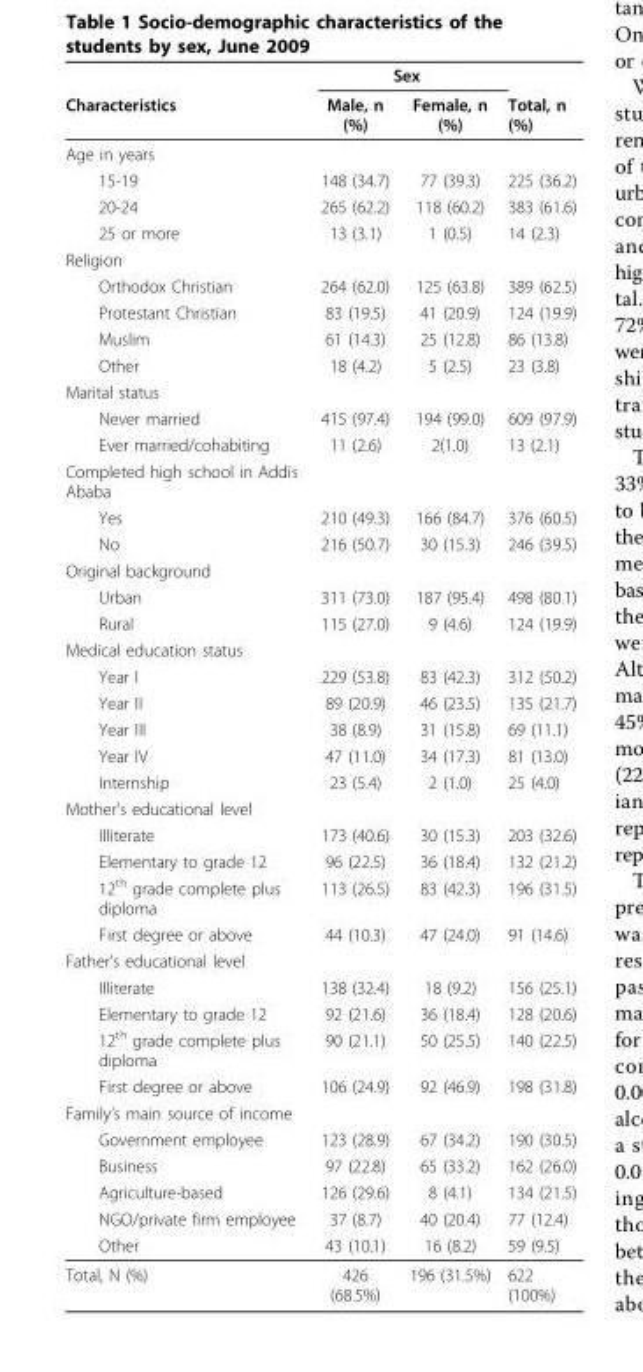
<table><thead><tr><td rowspan="2">Characteristics</td><td colspan="2">Sex</td><td rowspan="2">Total, n (%)</td></tr><tr><td>Male, n (%)</td><td>Female, n (%)</td></tr></thead><tbody><tr><td colspan="4">Age in years</td></tr><tr><td>15-19</td><td>148 (34.7)</td><td>77 (39.3)</td><td>225 (36.2)</td></tr><tr><td>20-24</td><td>265 (62.2)</td><td>118 (60.2)</td><td>383 (61.6)</td></tr><tr><td>25 or more</td><td>13 (3.1)</td><td>1 (0.5)</td><td>14 (2.3)</td></tr><tr><td colspan="4">Religion</td></tr><tr><td>Orthodox Christian</td><td>264 (62.0)</td><td>125 (63.8)</td><td>389 (62.5)</td></tr><tr><td>Protestant Christian</td><td>83 (19.5)</td><td>41 (20.9)</td><td>124 (19.9)</td></tr><tr><td>Muslim</td><td>61 (14.3)</td><td>25 (12.8)</td><td>86 (13.8)</td></tr><tr><td>Other</td><td>18 (4.2)</td><td>5 (2.5)</td><td>23 (3.8)</td></tr><tr><td colspan="4">Marital status</td></tr><tr><td>Never married</td><td>415 (97.4)</td><td>194 (99.0)</td><td>609 (97.9)</td></tr><tr><td>Ever married/cohabiting</td><td>11 (2.6)</td><td>2(1.0)</td><td>13 (2.1)</td></tr><tr><td colspan="4">Completed high school in Addis Ababa</td></tr><tr><td>Yes</td><td>210 (49.3)</td><td>166 (84.7)</td><td>376 (60.5)</td></tr><tr><td>No</td><td>216 (50.7)</td><td>30 (15.3)</td><td>246 (39.5)</td></tr><tr><td colspan="4">Original background</td></tr><tr><td>Urban</td><td>311 (73.0)</td><td>187 (95.4)</td><td>498 (80.1)</td></tr><tr><td>Rural</td><td>115 (27.0)</td><td>9 (4.6)</td><td>124 (19.9)</td></tr><tr><td colspan="4">Medical education status</td></tr><tr><td>Year I</td><td>229 (53.8)</td><td>83 (42.3)</td><td>312 (50.2)</td></tr><tr><td>Year II</td><td>89 (20.9)</td><td>46 (23.5)</td><td>135 (21.7)</td></tr><tr><td>Year III</td><td>38 (8.9)</td><td>31 (15.8)</td><td>69 (11.1)</td></tr><tr><td>Year IV</td><td>47 (11.0)</td><td>34 (17.3)</td><td>81 (13.0)</td></tr><tr><td>Internship</td><td>23 (5.4)</td><td>2 (1.0)</td><td>25 (4.0)</td></tr><tr><td colspan="4">Mother’s educational level</td></tr><tr><td>Illiterate</td><td>173 (40.6)</td><td>30 (15.3)</td><td>203 (32.6)</td></tr><tr><td>Elementary to grade 12</td><td>96 (22.5)</td><td>36 (18.4)</td><td>132 (21.2)</td></tr><tr><td>12<sup>th</sup> grade complete plus diploma</td><td>113 (26.5)</td><td>83 (42.3)</td><td>196 (31.5)</td></tr><tr><td>First degree or above</td><td>44 (10.3)</td><td>47 (24.0)</td><td>91 (14.6)</td></tr><tr><td colspan="4">Father’s educational level</td></tr><tr><td>Illiterate</td><td>138 (32.4)</td><td>18 (9.2)</td><td>156 (25.1)</td></tr><tr><td>Elementary to grade 12</td><td>92 (21.6)</td><td>36 (18.4)</td><td>128 (20.6)</td></tr><tr><td>12<sup>th</sup> grade complete plus diploma</td><td>90 (21.1)</td><td>50 (25.5)</td><td>140 (22.5)</td></tr><tr><td>First degree or above</td><td>106 (24.9)</td><td>92 (46.9)</td><td>198 (31.8)</td></tr><tr><td colspan="4">Family’s main source of income</td></tr><tr><td>Government employee</td><td>123 (28.9)</td><td>67 (34.2)</td><td>190 (30.5)</td></tr><tr><td>Business</td><td>97 (22.8)</td><td>65 (33.2)</td><td>162 (26.0)</td></tr><tr><td>Agriculture-based</td><td>126 (29.6)</td><td>8 (4.1)</td><td>134 (21.5)</td></tr><tr><td>NGO/private firm employee</td><td>37 (8.7)</td><td>40 (20.4)</td><td>77 (12.4)</td></tr><tr><td>Other</td><td>43 (10.1)</td><td>16 (8.2)</td><td>59 (9.5)</td></tr><tr><td>Total, N (%)</td><td>426 (68.5%)</td><td>196 (31.5%)</td><td>622 (100%)</td></tr></tbody></table>